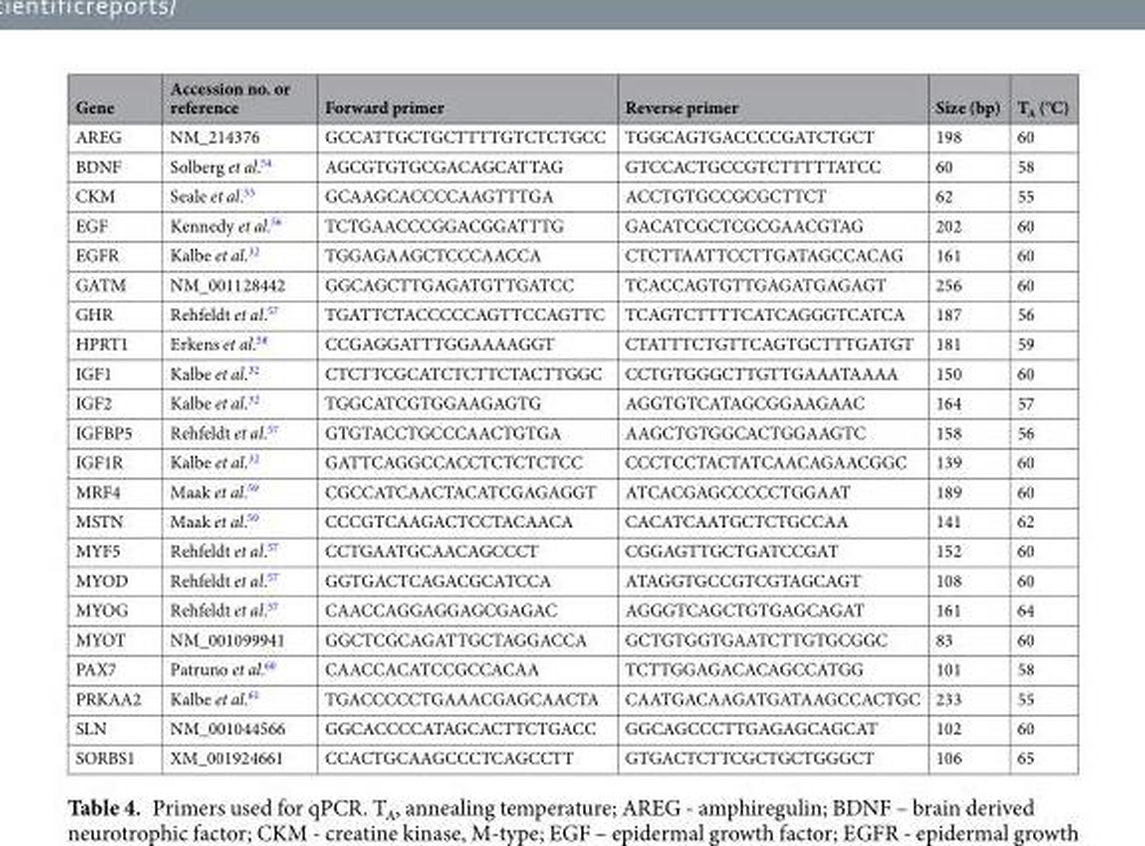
<table><thead><tr><td>Gene</td><td>Accession no. or reference</td><td>Forward primer</td><td>Reverse primer</td><td>Size (bp)</td><td>T<sub>A</sub> (°C)</td></tr></thead><tbody><tr><td>AREG</td><td>NM_214376</td><td>GCCATTGCTGCTTTTGTCTCTGCC</td><td>TGGCAGTGACCCCGATCTGCT</td><td>198</td><td>60</td></tr><tr><td>BDNF</td><td>Solberg et al.<sup>54</sup></td><td>AGCGTGTGCGACAGCATTAG</td><td>GTCCACTGCCGTCTTTTTATCC</td><td>60</td><td>58</td></tr><tr><td>CKM</td><td>Seale et al.<sup>55</sup></td><td>GCAAGCACCCCAAGTTTGA</td><td>ACCTGTGCCGCGCTTCT</td><td>62</td><td>55</td></tr><tr><td>EGF</td><td>Kennedy et al.<sup>56</sup></td><td>TCTGAACCCGGACGGATTTG</td><td>GACATCGCTCGCGAACGTAG</td><td>202</td><td>60</td></tr><tr><td>EGFR</td><td>Kalbe et al.<sup>32</sup></td><td>TGGAGAAGCTCCCAACCA</td><td>CTCTTAATTCCTTGATAGCCACAG</td><td>161</td><td>60</td></tr><tr><td>GATM</td><td>NM_001128442</td><td>GGCAGCTTGAGATGTTGATCC</td><td>TCACCAGTGTTGAGATGAGAGT</td><td>256</td><td>60</td></tr><tr><td>GHR</td><td>Rehfeldt et al.<sup>57</sup></td><td>TGATTCTACCCCCAGTTCCAGTTC</td><td>TCAGTCTTTTCATCAGGGTCATCA</td><td>187</td><td>56</td></tr><tr><td>HPRT1</td><td>Erkens et al.<sup>58</sup></td><td>CCGAGGATTTGGAAAAGGT</td><td>CTATTTCTGTTCAGTGCTTTGATGT</td><td>181</td><td>59</td></tr><tr><td>IGF1</td><td>Kalbe et al.<sup>32</sup></td><td>CTCTTCGCATCTCTTCTACTTGGC</td><td>CCTGTGGGCTTGTTGAAATAAAA</td><td>150</td><td>60</td></tr><tr><td>IGF2</td><td>Kalbe et al.<sup>32</sup></td><td>TGGCATCGTGGAAGAGTG</td><td>AGGTGTCATAGCGGAAGAAC</td><td>164</td><td>57</td></tr><tr><td>IGFBP5</td><td>Rehfeldt et al.<sup>57</sup></td><td>GTGTACCTGCCCAACTGTGA</td><td>AAGCTGTGGCACTGGAAGTC</td><td>158</td><td>56</td></tr><tr><td>IGF1R</td><td>Kalbe et al.<sup>32</sup></td><td>GATTCAGGCCACCTCTCTCTCC</td><td>CCCTCCTACTATCAACAGAACGGC</td><td>139</td><td>60</td></tr><tr><td>MRF4</td><td>Maak et al.<sup>59</sup></td><td>CGCCATCAACTACATCGAGAGGT</td><td>ATCACGAGCCCCCTGGAAT</td><td>189</td><td>60</td></tr><tr><td>MSTN</td><td>Maak et al.<sup>59</sup></td><td>CCCGTCAAGACTCCTACAACA</td><td>CACATCAATGCTCTGCCAA</td><td>141</td><td>62</td></tr><tr><td>MYF5</td><td>Rehfeldt et al.<sup>57</sup></td><td>CCTGAATGCAACAGCCCT</td><td>CGGAGTTGCTGATCCGAT</td><td>152</td><td>60</td></tr><tr><td>MYOD</td><td>Rehfeldt et al.<sup>57</sup></td><td>GGTGACTCAGACGCATCCA</td><td>ATAGGTGCCGTCGTAGCAGT</td><td>108</td><td>60</td></tr><tr><td>MYOG</td><td>Rehfeldt et al.<sup>57</sup></td><td>CAACCAGGAGGAGCGAGAC</td><td>AGGGTCAGCTGTGAGCAGAT</td><td>161</td><td>64</td></tr><tr><td>MYOT</td><td>NM_001099941</td><td>GGCTCGCAGATTGCTAGGACCA</td><td>GCTGTGGTGAATCTTGTGCGGC</td><td>83</td><td>60</td></tr><tr><td>PAX7</td><td>Patruno et al.<sup>60</sup></td><td>CAACCACATCCGCCACAA</td><td>TCTTGGAGACACAGCCATGG</td><td>101</td><td>58</td></tr><tr><td>PRKAA2</td><td>Kalbe et al.<sup>61</sup></td><td>TGACCCCCTGAAACGAGCAACTA</td><td>CAATGACAAGATGATAAGCCACTGC</td><td>233</td><td>55</td></tr><tr><td>SLN</td><td>NM_001044566</td><td>GGCACCCCATAGCACTTCTGACC</td><td>GGCAGCCCTTGAGAGCAGCAT</td><td>102</td><td>60</td></tr><tr><td>SORBS1</td><td>XM_001924661</td><td>CCACTGCAAGCCCTCAGCCTT</td><td>GTGACTCTTCGCTGCTGGGCT</td><td>106</td><td>65</td></tr></tbody></table>